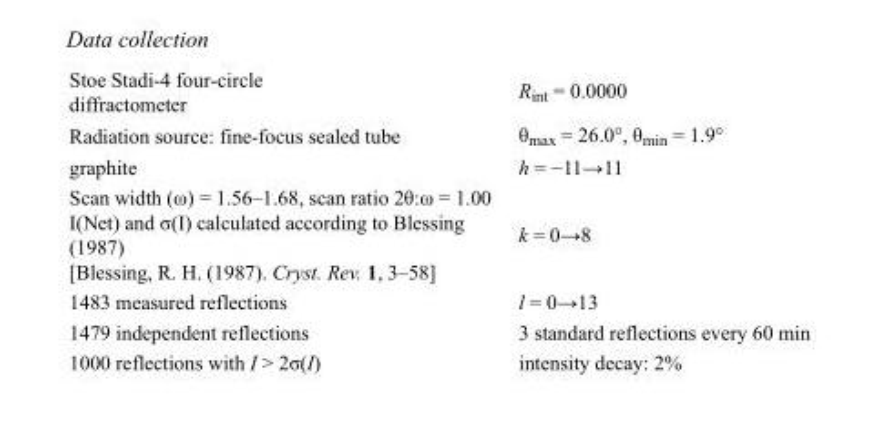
<table><tbody><tr><td>Stoe Stadi-4 four-circle diffractometer</td><td>R<sub>int</sub> = 0.0000</td></tr><tr><td>Radiation source: fine-focus sealed tube</td><td>θ<sub>max</sub> = 26.0°, θ<sub>min</sub> = 1.9°</td></tr><tr><td>graphite</td><td>h = −11→11</td></tr><tr><td>Scan width (ω) = 1.56–1.68, scan ratio 2θ:ω = 1.00 I(Net) and σ(I) calculated according to Blessing (1987) [Blessing, R. H. (1987). Cryst. Rev. 1, 3–58]</td><td>k = 0→8</td></tr><tr><td>1483 measured reflections</td><td>l = 0→13</td></tr><tr><td>1479 independent reflections</td><td>3 standard reflections every 60 min</td></tr><tr><td>1000 reflections with I &gt; 2σ(I)</td><td>intensity decay: 2%</td></tr></tbody></table>